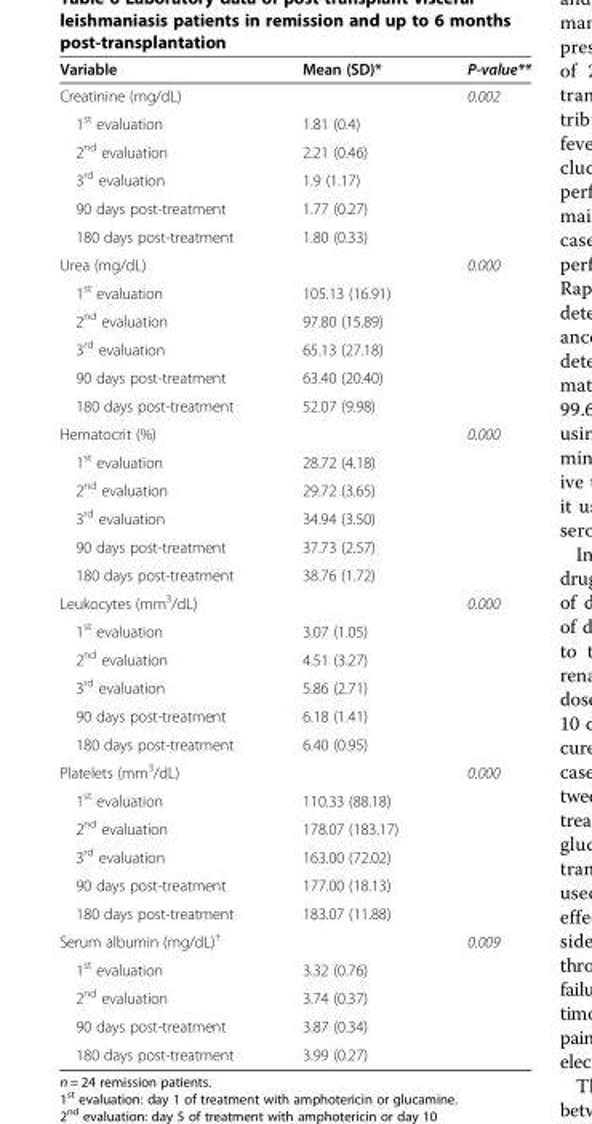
<table><thead><tr><td>Variable</td><td>Mean (SD)*</td><td>P-value**</td></tr></thead><tbody><tr><td>Creatinine (mg/dL)</td><td></td><td>0.002</td></tr><tr><td>1<sup>st</sup> evaluation</td><td>1.81 (0.4)</td><td></td></tr><tr><td>2<sup>nd</sup> evaluation</td><td>2.21 (0.46)</td><td></td></tr><tr><td>3<sup>rd</sup> evaluation</td><td>1.9 (1.17)</td><td></td></tr><tr><td>90 days post-treatment</td><td>1.77 (0.27)</td><td></td></tr><tr><td>180 days post-treatment</td><td>1.80 (0.33)</td><td></td></tr><tr><td>Urea (mg/dL)</td><td></td><td>0.000</td></tr><tr><td>1<sup>st</sup> evaluation</td><td>105.13 (16.91)</td><td></td></tr><tr><td>2<sup>nd</sup> evaluation</td><td>97.80 (15.89)</td><td></td></tr><tr><td>3<sup>rd</sup> evaluation</td><td>65.13 (27.18)</td><td></td></tr><tr><td>90 days post-treatment</td><td>63.40 (20.40)</td><td></td></tr><tr><td>180 days post-treatment</td><td>52.07 (9.98)</td><td></td></tr><tr><td>Hematocrit (%)</td><td></td><td>0.000</td></tr><tr><td>1<sup>st</sup> evaluation</td><td>28.72 (4.18)</td><td></td></tr><tr><td>2<sup>nd</sup> evaluation</td><td>29.72 (3.65)</td><td></td></tr><tr><td>3<sup>rd</sup> evaluation</td><td>34.94 (3.50)</td><td></td></tr><tr><td>90 days post-treatment</td><td>37.73 (2.57)</td><td></td></tr><tr><td>180 days post-treatment</td><td>38.76 (1.72)</td><td></td></tr><tr><td>Leukocytes (mm<sup>3</sup>/dL)</td><td></td><td>0.000</td></tr><tr><td>1<sup>st</sup> evaluation</td><td>3.07 (1.05)</td><td></td></tr><tr><td>2<sup>nd</sup> evaluation</td><td>4.51 (3.27)</td><td></td></tr><tr><td>3<sup>rd</sup> evaluation</td><td>5.86 (2.71)</td><td></td></tr><tr><td>90 days post-treatment</td><td>6.18 (1.41)</td><td></td></tr><tr><td>180 days post-treatment</td><td>6.40 (0.95)</td><td></td></tr><tr><td>Platelets (mm<sup>3</sup>/dL)</td><td></td><td>0.000</td></tr><tr><td>1<sup>st</sup> evaluation</td><td>110.33 (88.18)</td><td></td></tr><tr><td>2<sup>nd</sup> evaluation</td><td>178.07 (183.17)</td><td></td></tr><tr><td>3<sup>rd</sup> evaluation</td><td>163.00 (72.02)</td><td></td></tr><tr><td>90 days post-treatment</td><td>177.00 (18.13)</td><td></td></tr><tr><td>180 days post-treatment</td><td>183.07 (11.88)</td><td></td></tr><tr><td>Serum albumin (mg/dL)<sup>†</sup></td><td></td><td>0.009</td></tr><tr><td>1<sup>st</sup> evaluation</td><td>3.32 (0.76)</td><td></td></tr><tr><td>2<sup>nd</sup> evaluation</td><td>3.74 (0.37)</td><td></td></tr><tr><td>90 days post-treatment</td><td>3.87 (0.34)</td><td></td></tr><tr><td>180 days post-treatment</td><td>3.99 (0.27)</td><td></td></tr></tbody></table>